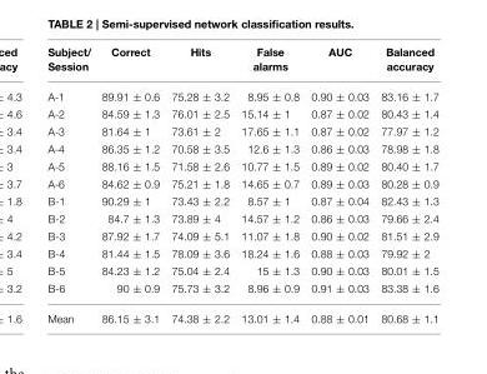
<table><thead><tr><td>Subject/ Session</td><td>Correct</td><td>Hits</td><td>False alarms</td><td>AUC</td><td>Balanced accuracy</td></tr></thead><tbody><tr><td>A-1</td><td>89.91 ± 0.6</td><td>75.28 ± 3.2</td><td>8.95 ± 0.8</td><td>0.90 ± 0.03</td><td>83.16 ± 1.7</td></tr><tr><td>A-2</td><td>84.59 ± 1.3</td><td>76.01 ± 2.5</td><td>15.14 ± 1</td><td>0.87 ± 0.02</td><td>80.43 ± 1.4</td></tr><tr><td>A-3</td><td>81.64 ± 1</td><td>73.61 ± 2</td><td>17.65 ± 1.1</td><td>0.87 ± 0.02</td><td>77.97 ± 1.2</td></tr><tr><td>A-4</td><td>86.35 ± 1.2</td><td>70.58 ± 3.5</td><td>12.6 ± 1.3</td><td>0.86 ± 0.03</td><td>78.98 ± 1.8</td></tr><tr><td>A-5</td><td>88.16 ± 1.5</td><td>71.58 ± 2.6</td><td>10.77 ± 1.5</td><td>0.89 ± 0.02</td><td>80.40 ± 1.7</td></tr><tr><td>A-6</td><td>84.62 ± 0.9</td><td>75.21 ± 1.8</td><td>14.65 ± 0.7</td><td>0.89 ± 0.03</td><td>80.28 ± 0.9</td></tr><tr><td>B-1</td><td>90.29 ± 1</td><td>73.43 ± 2.2</td><td>8.57 ± 1</td><td>0.87 ± 0.04</td><td>82.43 ± 1.3</td></tr><tr><td>B-2</td><td>84.7 ± 1.3</td><td>73.89 ± 4</td><td>14.57 ± 1.2</td><td>0.86 ± 0.03</td><td>79.66 ± 2.4</td></tr><tr><td>B-3</td><td>87.92 ± 1.7</td><td>74.09 ± 5.1</td><td>11.07 ± 1.8</td><td>0.90 ± 0.02</td><td>81.51 ± 2.9</td></tr><tr><td>B-4</td><td>81.44 ± 1.5</td><td>78.09 ± 3.6</td><td>18.24 ± 1.6</td><td>0.88 ± 0.03</td><td>79.92 ± 2</td></tr><tr><td>B-5</td><td>84.23 ± 1.2</td><td>75.04 ± 2.4</td><td>15 ± 1.3</td><td>0.90 ± 0.03</td><td>80.01 ± 1.5</td></tr><tr><td>B-6</td><td>90 ± 0.9</td><td>75.73 ± 3.2</td><td>8.96 ± 0.9</td><td>0.91 ± 0.03</td><td>83.38 ± 1.6</td></tr><tr><td>Mean</td><td>86.15 ± 3.1</td><td>74.38 ± 2.2</td><td>13.01 ± 1.4</td><td>0.88 ± 0.01</td><td>80.68 ± 1.1</td></tr></tbody></table>